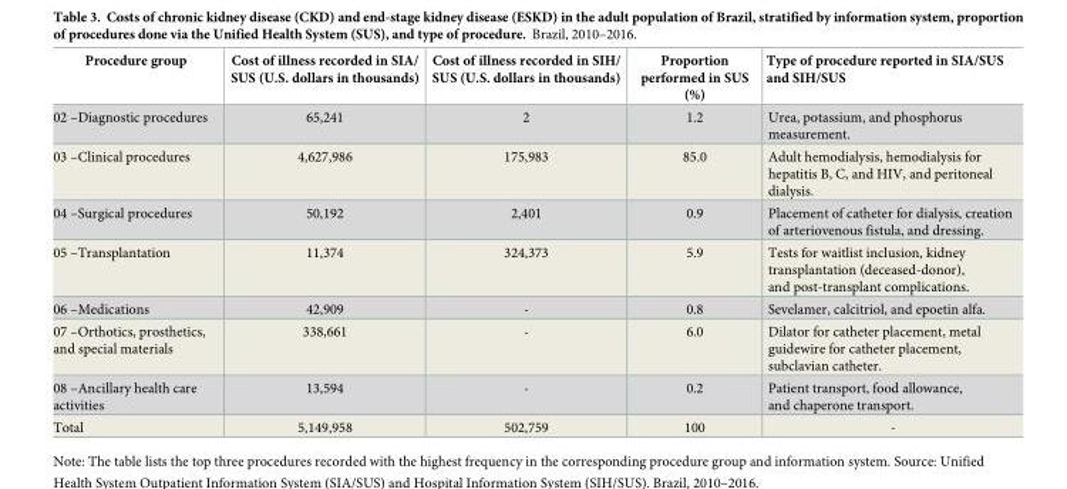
<table><thead><tr><td>Procedure group</td><td>Cost of illness recorded in SIA/ SUS (U.S. dollars in thousands)</td><td>Cost of illness recorded in SIH/ SUS (U.S. dollars in thousands)</td><td>Proportion performed in SUS (%)</td><td>Type of procedure reported in SIA/SUS and SIH/SUS</td></tr></thead><tbody><tr><td>02 –Diagnostic procedures</td><td>65,241</td><td>2</td><td>1.2</td><td>Urea, potassium, and phosphorus measurement.</td></tr><tr><td>03 –Clinical procedures</td><td>4,627,986</td><td>175,983</td><td>85.0</td><td>Adult hemodialysis, hemodialysis for hepatitis B, C, and HIV, and peritoneal dialysis.</td></tr><tr><td>04 –Surgical procedures</td><td>50,192</td><td>2,401</td><td>0.9</td><td>Placement of catheter for dialysis, creation of arteriovenous fistula, and dressing.</td></tr><tr><td>05 –Transplantation</td><td>11,374</td><td>324,373</td><td>5.9</td><td>Tests for waitlist inclusion, kidney transplantation (deceased-donor), and post-transplant complications.</td></tr><tr><td>06 –Medications</td><td>42,909</td><td>-</td><td>0.8</td><td>Sevelamer, calcitriol, and epoetin alfa.</td></tr><tr><td>07 –Orthotics, prosthetics, and special materials</td><td>338,661</td><td>-</td><td>6.0</td><td>Dilator for catheter placement, metal guidewire for catheter placement, subclavian catheter.</td></tr><tr><td>08 –Ancillary health care activities</td><td>13,594</td><td>-</td><td>0.2</td><td>Patient transport, food allowance, and chaperone transport.</td></tr><tr><td>Total</td><td>5,149,958</td><td>502,759</td><td>100</td><td>-</td></tr></tbody></table>